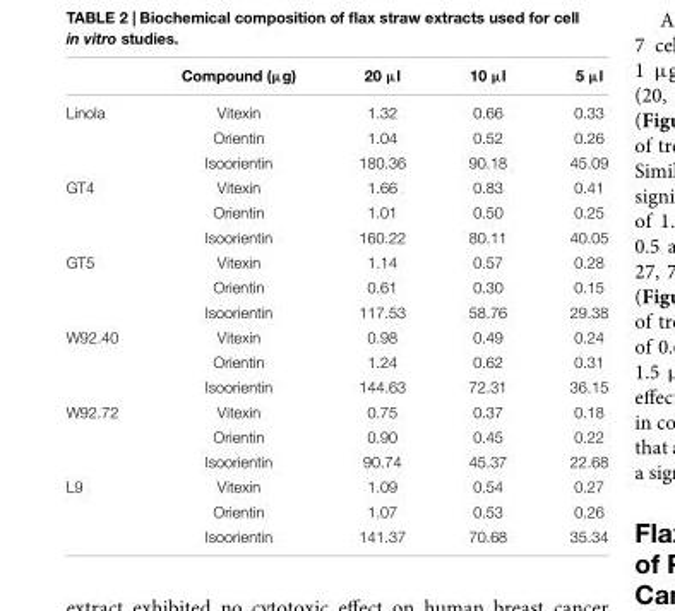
<table><thead><tr><td></td><td>Compound (µg)</td><td>20 µl</td><td>10 µl</td><td>5 µl</td></tr></thead><tbody><tr><td rowspan="3">Linola</td><td>Vitexin</td><td>1.32</td><td>0.66</td><td>0.33</td></tr><tr><td>Orientin</td><td>1.04</td><td>0.52</td><td>0.26</td></tr><tr><td>Isoorientin</td><td>180.36</td><td>90.18</td><td>45.09</td></tr><tr><td rowspan="3">GT4</td><td>Vitexin</td><td>1.66</td><td>0.83</td><td>0.41</td></tr><tr><td>Orientin</td><td>1.01</td><td>0.50</td><td>0.25</td></tr><tr><td>Isoorientin</td><td>160.22</td><td>80.11</td><td>40.05</td></tr><tr><td rowspan="3">GT5</td><td>Vitexin</td><td>1.14</td><td>0.57</td><td>0.28</td></tr><tr><td>Orientin</td><td>0.61</td><td>0.30</td><td>0.15</td></tr><tr><td>Isoorientin</td><td>117.53</td><td>58.76</td><td>29.38</td></tr><tr><td rowspan="3">W92.40</td><td>Vitexin</td><td>0.98</td><td>0.49</td><td>0.24</td></tr><tr><td>Orientin</td><td>1.24</td><td>0.62</td><td>0.31</td></tr><tr><td>Isoorientin</td><td>144.63</td><td>72.31</td><td>36.15</td></tr><tr><td rowspan="3">W92.72</td><td>Vitexin</td><td>0.75</td><td>0.37</td><td>0.18</td></tr><tr><td>Orientin</td><td>0.90</td><td>0.45</td><td>0.22</td></tr><tr><td>Isoorientin</td><td>90.74</td><td>45.37</td><td>22.68</td></tr><tr><td rowspan="3">L9</td><td>Vitexin</td><td>1.09</td><td>0.54</td><td>0.27</td></tr><tr><td>Orientin</td><td>1.07</td><td>0.53</td><td>0.26</td></tr><tr><td>Isoorientin</td><td>141.37</td><td>70.68</td><td>35.34</td></tr></tbody></table>